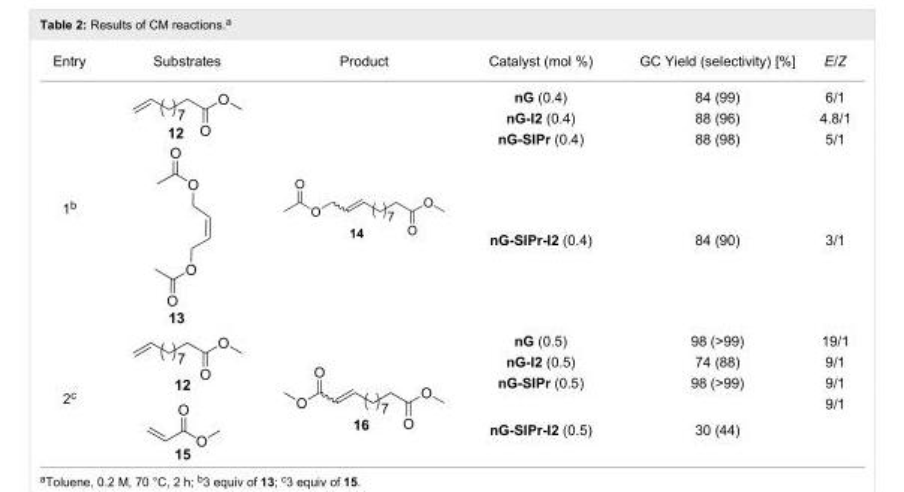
<table><tbody><tr><td>Entry</td><td>Substrates</td><td>Product</td><td>Catalyst (mol %)</td><td>GC Yield (selectivity) [%]</td><td>E/Z</td></tr><tr><td rowspan="4">1<sup>b</sup></td><td rowspan="4"></td><td rowspan="4"></td><td>nG (0.4)</td><td>84 (99)</td><td>6/1</td></tr><tr><td>nG-I2 (0.4)</td><td>88 (96)</td><td>4.8/1</td></tr><tr><td>nG-SIPr (0.4)</td><td>88 (98)</td><td>5/1</td></tr><tr><td>nG-SIPr-I2 (0.4)</td><td>84 (90)</td><td>3/1</td></tr><tr><td rowspan="4">2<sup>c</sup></td><td rowspan="4"></td><td rowspan="4"></td><td>nG (0.5)</td><td>98 (&gt;99)</td><td>19/1</td></tr><tr><td>nG-I2 (0.5)</td><td>74 (88)</td><td>9/1</td></tr><tr><td>nG-SIPr (0.5)</td><td>98 (&gt;99)</td><td>9/1</td></tr><tr><td>nG-SIPr-I2 (0.5)</td><td>30 (44)</td><td>9/1</td></tr></tbody></table>